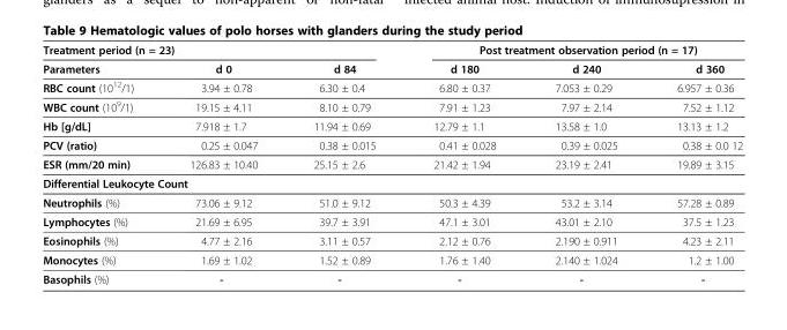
<table><thead><tr><td colspan="3">Treatment period (n = 23)</td><td colspan="3">Post treatment observation period (n = 17)</td></tr><tr><td>Parameters</td><td>d 0</td><td>d 84</td><td>d 180</td><td>d 240</td><td>d 360</td></tr></thead><tbody><tr><td>RBC count (10<sup>12</sup>/1)</td><td>3.94 ± 0.78</td><td>6.30 ± 0.4</td><td>6.80 ± 0.37</td><td>7.053 ± 0.29</td><td>6.957 ± 0.36</td></tr><tr><td>WBC count (10<sup>9</sup>/1)</td><td>19.15 ± 4.11</td><td>8.10 ± 0.79</td><td>7.91 ± 1.23</td><td>7.97 ± 2.14</td><td>7.52 ± 1.12</td></tr><tr><td>Hb [g/dL]</td><td>7.918 ± 1.7</td><td>11.94 ± 0.69</td><td>12.79 ± 1.1</td><td>13.58 ± 1.0</td><td>13.13 ± 1.2</td></tr><tr><td>PCV (ratio)</td><td>0.25 ± 0.047</td><td>0.38 ± 0.015</td><td>0.41 ± 0.028</td><td>0.39 ± 0.025</td><td>0.38 ± 0.0 12</td></tr><tr><td>ESR (mm/20 min)</td><td>126.83 ± 10.40</td><td>25.15 ± 2.6</td><td>21.42 ± 1.94</td><td>23.19 ± 2.41</td><td>19.89 ± 3.15</td></tr><tr><td colspan="6">Differential Leukocyte Count</td></tr><tr><td>Neutrophils (%)</td><td>73.06 ± 9.12</td><td>51.0 ± 9.12</td><td>50.3 ± 4.39</td><td>53.2 ± 3.14</td><td>57.28 ± 0.89</td></tr><tr><td>Lymphocytes (%)</td><td>21.69 ± 6.95</td><td>39.7 ± 3.91</td><td>47.1 ± 3.01</td><td>43.01 ± 2.10</td><td>37.5 ± 1.23</td></tr><tr><td>Eosinophils (%)</td><td>4.77 ± 2.16</td><td>3.11 ± 0.57</td><td>2.12 ± 0.76</td><td>2.190 ± 0.911</td><td>4.23 ± 2.11</td></tr><tr><td>Monocytes (%)</td><td>1.69 ± 1.02</td><td>1.52 ± 0.89</td><td>1.76 ± 1.40</td><td>2.140 ± 1.024</td><td>1.2 ± 1.00</td></tr><tr><td>Basophils (%)</td><td>-</td><td>-</td><td>-</td><td>-</td><td>-</td></tr></tbody></table>